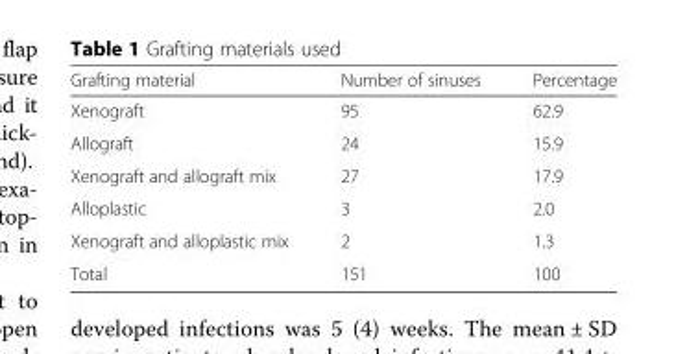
<table><thead><tr><td>Grafting material</td><td>Number of sinuses</td><td>Percentage</td></tr></thead><tbody><tr><td>Xenograft</td><td>95</td><td>62.9</td></tr><tr><td>Allograft</td><td>24</td><td>15.9</td></tr><tr><td>Xenograft and allograft mix</td><td>27</td><td>17.9</td></tr><tr><td>Alloplastic</td><td>3</td><td>2.0</td></tr><tr><td>Xenograft and alloplastic mix</td><td>2</td><td>1.3</td></tr><tr><td>Total</td><td>151</td><td>100</td></tr></tbody></table>